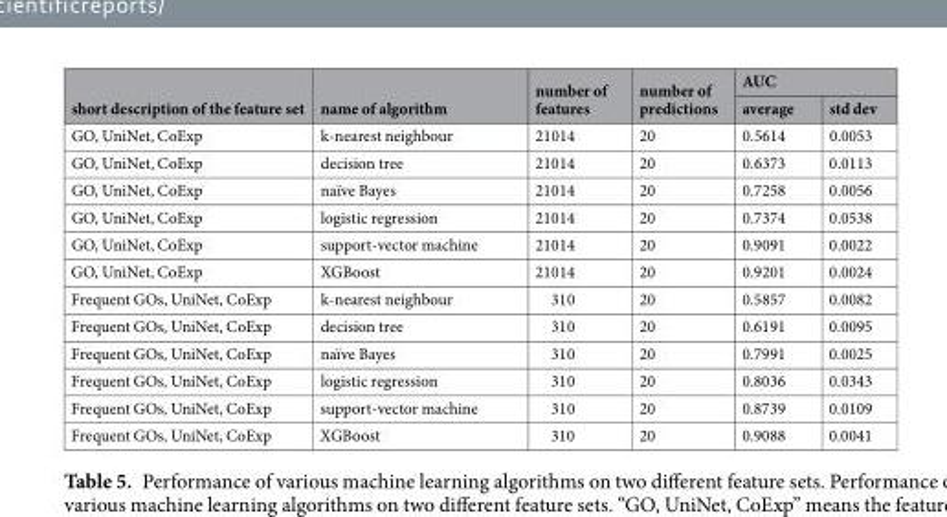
<table><thead><tr><td rowspan="2">short description of the feature set</td><td rowspan="2">name of algorithm</td><td rowspan="2">number of features</td><td rowspan="2">number of predictions</td><td colspan="2">AUC</td></tr><tr><td>average</td><td>std dev</td></tr></thead><tbody><tr><td>GO, UniNet, CoExp</td><td>k-nearest neighbour</td><td>21014</td><td>20</td><td>0.5614</td><td>0.0053</td></tr><tr><td>GO, UniNet, CoExp</td><td>decision tree</td><td>21014</td><td>20</td><td>0.6373</td><td>0.0113</td></tr><tr><td>GO, UniNet, CoExp</td><td>naïve Bayes</td><td>21014</td><td>20</td><td>0.7258</td><td>0.0056</td></tr><tr><td>GO, UniNet, CoExp</td><td>logistic regression</td><td>21014</td><td>20</td><td>0.7374</td><td>0.0538</td></tr><tr><td>GO, UniNet, CoExp</td><td>support-vector machine</td><td>21014</td><td>20</td><td>0.9091</td><td>0.0022</td></tr><tr><td>GO, UniNet, CoExp</td><td>XGBoost</td><td>21014</td><td>20</td><td>0.9201</td><td>0.0024</td></tr><tr><td>Frequent GOs, UniNet, CoExp</td><td>k-nearest neighbour</td><td>310</td><td>20</td><td>0.5857</td><td>0.0082</td></tr><tr><td>Frequent GOs, UniNet, CoExp</td><td>decision tree</td><td>310</td><td>20</td><td>0.6191</td><td>0.0095</td></tr><tr><td>Frequent GOs, UniNet, CoExp</td><td>naïve Bayes</td><td>310</td><td>20</td><td>0.7991</td><td>0.0025</td></tr><tr><td>Frequent GOs, UniNet, CoExp</td><td>logistic regression</td><td>310</td><td>20</td><td>0.8036</td><td>0.0343</td></tr><tr><td>Frequent GOs, UniNet, CoExp</td><td>support-vector machine</td><td>310</td><td>20</td><td>0.8739</td><td>0.0109</td></tr><tr><td>Frequent GOs, UniNet, CoExp</td><td>XGBoost</td><td>310</td><td>20</td><td>0.9088</td><td>0.0041</td></tr></tbody></table>